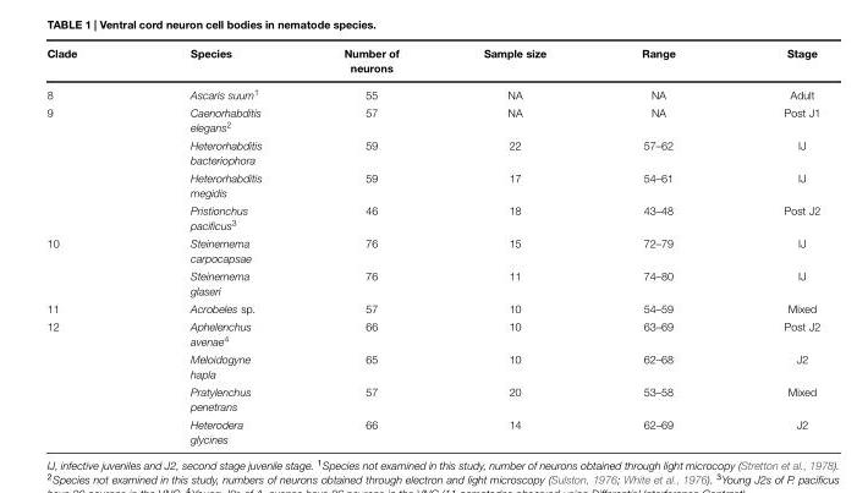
<table><thead><tr><td>Clade</td><td>Species</td><td>Number of neurons</td><td>Sample size</td><td>Range</td><td>Stage</td></tr></thead><tbody><tr><td>8</td><td>Ascaris suum<sup>1</sup></td><td>55</td><td>NA</td><td>NA</td><td>Adult</td></tr><tr><td rowspan="4">9</td><td>Caenorhabditis elegans<sup>2</sup></td><td>57</td><td>NA</td><td>NA</td><td>Post J1</td></tr><tr><td>Heterorhabditis bacteriophora</td><td>59</td><td>22</td><td>57–62</td><td>IJ</td></tr><tr><td>Heterorhabditis megidis</td><td>59</td><td>17</td><td>54–61</td><td>IJ</td></tr><tr><td>Pristionchus pacificus<sup>3</sup></td><td>46</td><td>18</td><td>43–48</td><td>Post J2</td></tr><tr><td rowspan="2">10</td><td>Steinernema carpocapsae</td><td>76</td><td>15</td><td>72–79</td><td>IJ</td></tr><tr><td>Steinernema glaseri</td><td>76</td><td>11</td><td>74–80</td><td>IJ</td></tr><tr><td>11</td><td>Acrobeles sp.</td><td>57</td><td>10</td><td>54–59</td><td>Mixed</td></tr><tr><td rowspan="4">12</td><td>Aphelenchus avenae<sup>4</sup></td><td>66</td><td>10</td><td>63–69</td><td>Post J2</td></tr><tr><td>Meloidogyne hapla</td><td>65</td><td>10</td><td>62–68</td><td>J2</td></tr><tr><td>Pratylenchus penetrans</td><td>57</td><td>20</td><td>53–58</td><td>Mixed</td></tr><tr><td>Heterodera glycines</td><td>66</td><td>14</td><td>62–69</td><td>J2</td></tr></tbody></table>